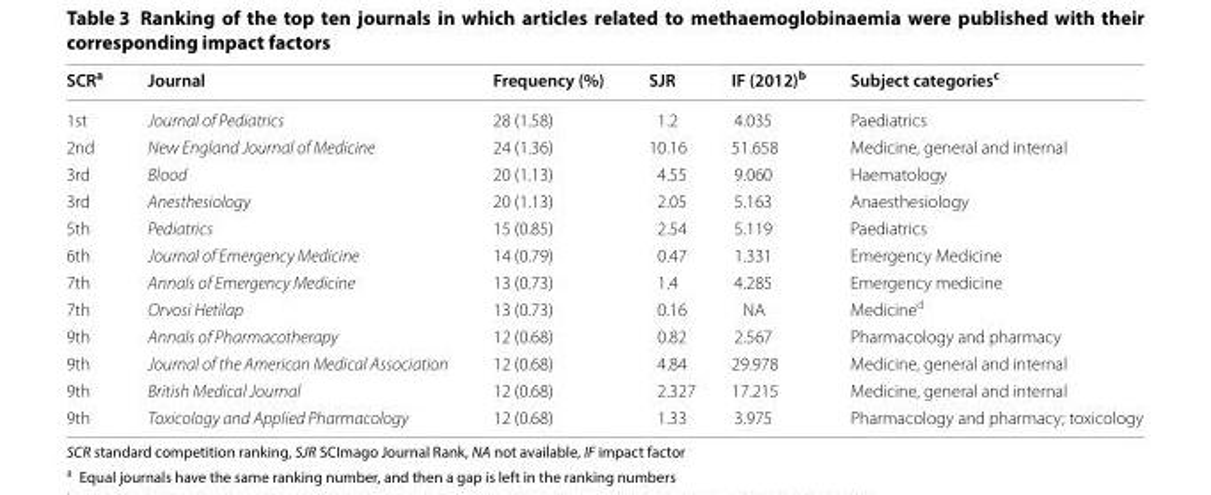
<table><thead><tr><td>SCR<sup>a</sup></td><td>Journal</td><td>Frequency (%)</td><td>SJR</td><td>IF (2012)<sup>b</sup></td><td>Subject categories<sup>c</sup></td></tr></thead><tbody><tr><td>1st</td><td>Journal of Pediatrics</td><td>28 (1.58)</td><td>1.2</td><td>4.035</td><td>Paediatrics</td></tr><tr><td>2nd</td><td>New England Journal of Medicine</td><td>24 (1.36)</td><td>10.16</td><td>51.658</td><td>Medicine, general and internal</td></tr><tr><td>3rd</td><td>Blood</td><td>20 (1.13)</td><td>4.55</td><td>9.060</td><td>Haematology</td></tr><tr><td>3rd</td><td>Anesthesiology</td><td>20 (1.13)</td><td>2.05</td><td>5.163</td><td>Anaesthesiology</td></tr><tr><td>5th</td><td>Pediatrics</td><td>15 (0.85)</td><td>2.54</td><td>5.119</td><td>Paediatrics</td></tr><tr><td>6th</td><td>Journal of Emergency Medicine</td><td>14 (0.79)</td><td>0.47</td><td>1.331</td><td>Emergency Medicine</td></tr><tr><td>7th</td><td>Annals of Emergency Medicine</td><td>13 (0.73)</td><td>1.4</td><td>4.285</td><td>Emergency medicine</td></tr><tr><td>7th</td><td>Orvosi Hetilap</td><td>13 (0.73)</td><td>0.16</td><td>NA</td><td>Medicine<sup>d</sup></td></tr><tr><td>9th</td><td>Annals of Pharmacotherapy</td><td>12 (0.68)</td><td>0.82</td><td>2.567</td><td>Pharmacology and pharmacy</td></tr><tr><td>9th</td><td>Journal of the American Medical Association</td><td>12 (0.68)</td><td>4.84</td><td>29.978</td><td>Medicine, general and internal</td></tr><tr><td>9th</td><td>British Medical Journal</td><td>12 (0.68)</td><td>2.327</td><td>17.215</td><td>Medicine, general and internal</td></tr><tr><td>9th</td><td>Toxicology and Applied Pharmacology</td><td>12 (0.68)</td><td>1.33</td><td>3.975</td><td>Pharmacology and pharmacy; toxicology</td></tr></tbody></table>